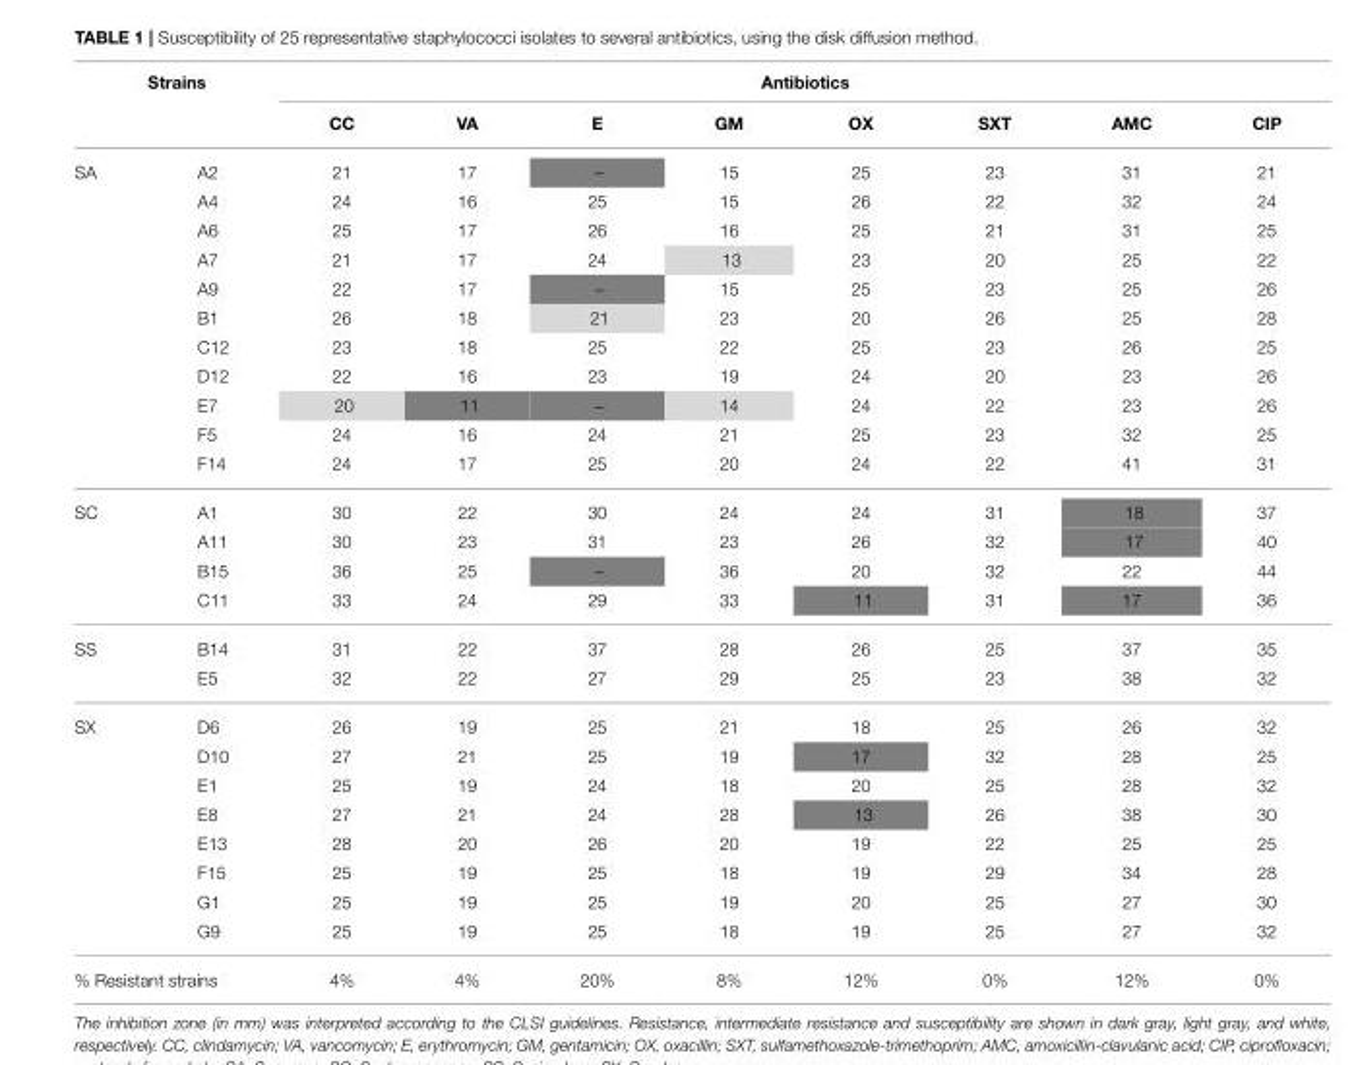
<table><thead><tr><td colspan="2">Strains</td><td colspan="8">Antibiotics</td></tr><tr><td></td><td></td><td>CC</td><td>VA</td><td>E</td><td>GM</td><td>OX</td><td>SXT</td><td>AMC</td><td>CIP</td></tr></thead><tbody><tr><td rowspan="11">SA</td><td>A2</td><td>21</td><td>17</td><td>–</td><td>15</td><td>25</td><td>23</td><td>31</td><td>21</td></tr><tr><td>A4</td><td>24</td><td>16</td><td>25</td><td>15</td><td>26</td><td>22</td><td>32</td><td>24</td></tr><tr><td>A6</td><td>25</td><td>17</td><td>26</td><td>16</td><td>25</td><td>21</td><td>31</td><td>25</td></tr><tr><td>A7</td><td>21</td><td>17</td><td>24</td><td>13</td><td>23</td><td>20</td><td>25</td><td>22</td></tr><tr><td>A9</td><td>22</td><td>17</td><td>–</td><td>15</td><td>25</td><td>23</td><td>25</td><td>26</td></tr><tr><td>B1</td><td>26</td><td>18</td><td>21</td><td>23</td><td>20</td><td>26</td><td>25</td><td>28</td></tr><tr><td>C12</td><td>23</td><td>18</td><td>25</td><td>22</td><td>25</td><td>23</td><td>26</td><td>25</td></tr><tr><td>D12</td><td>22</td><td>16</td><td>23</td><td>19</td><td>24</td><td>20</td><td>23</td><td>26</td></tr><tr><td>E7</td><td>20</td><td>11</td><td>–</td><td>14</td><td>24</td><td>22</td><td>23</td><td>26</td></tr><tr><td>F5</td><td>24</td><td>16</td><td>24</td><td>21</td><td>25</td><td>23</td><td>32</td><td>25</td></tr><tr><td>F14</td><td>24</td><td>17</td><td>25</td><td>20</td><td>24</td><td>22</td><td>41</td><td>31</td></tr><tr><td rowspan="4">SC</td><td>A1</td><td>30</td><td>22</td><td>30</td><td>24</td><td>24</td><td>31</td><td>18</td><td>37</td></tr><tr><td>A11</td><td>30</td><td>23</td><td>31</td><td>23</td><td>26</td><td>32</td><td>17</td><td>40</td></tr><tr><td>B15</td><td>36</td><td>25</td><td>–</td><td>36</td><td>20</td><td>32</td><td>22</td><td>44</td></tr><tr><td>C11</td><td>33</td><td>24</td><td>29</td><td>33</td><td>11</td><td>31</td><td>17</td><td>36</td></tr><tr><td rowspan="2">SS</td><td>B14</td><td>31</td><td>22</td><td>37</td><td>28</td><td>26</td><td>25</td><td>37</td><td>35</td></tr><tr><td>E5</td><td>32</td><td>22</td><td>27</td><td>29</td><td>25</td><td>23</td><td>38</td><td>32</td></tr><tr><td rowspan="8">SX</td><td>D6</td><td>26</td><td>19</td><td>25</td><td>21</td><td>18</td><td>25</td><td>26</td><td>32</td></tr><tr><td>D10</td><td>27</td><td>21</td><td>25</td><td>19</td><td>17</td><td>32</td><td>28</td><td>25</td></tr><tr><td>E1</td><td>25</td><td>19</td><td>24</td><td>18</td><td>20</td><td>25</td><td>28</td><td>32</td></tr><tr><td>E8</td><td>27</td><td>21</td><td>24</td><td>28</td><td>13</td><td>26</td><td>38</td><td>30</td></tr><tr><td>E13</td><td>28</td><td>20</td><td>26</td><td>20</td><td>19</td><td>22</td><td>25</td><td>25</td></tr><tr><td>F15</td><td>25</td><td>19</td><td>25</td><td>18</td><td>19</td><td>29</td><td>34</td><td>28</td></tr><tr><td>G1</td><td>25</td><td>19</td><td>25</td><td>19</td><td>20</td><td>25</td><td>27</td><td>30</td></tr><tr><td>G9</td><td>25</td><td>19</td><td>25</td><td>18</td><td>19</td><td>25</td><td>27</td><td>32</td></tr><tr><td colspan="2">% Resistant strains</td><td>4%</td><td>4%</td><td>20%</td><td>8%</td><td>12%</td><td>0%</td><td>12%</td><td>0%</td></tr></tbody></table>